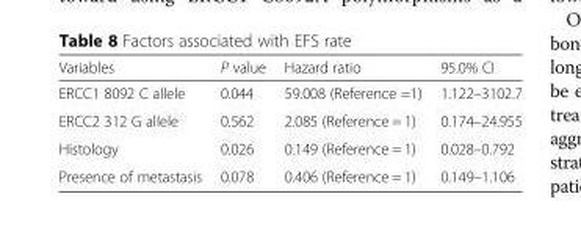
<table><thead><tr><td>Variables</td><td>P value</td><td>Hazard ratio</td><td>95.0% CI</td></tr></thead><tbody><tr><td>ERCC1 8092 C allele</td><td>0.044</td><td>59.008 (Reference =1)</td><td>1.122–3102.7</td></tr><tr><td>ERCC2 312 G allele</td><td>0.562</td><td>2.085 (Reference = 1)</td><td>0.174–24.955</td></tr><tr><td>Histology</td><td>0.026</td><td>0.149 (Reference = 1)</td><td>0.028–0.792</td></tr><tr><td>Presence of metastasis</td><td>0.078</td><td>0.406 (Reference = 1)</td><td>0.149–1.106</td></tr></tbody></table>